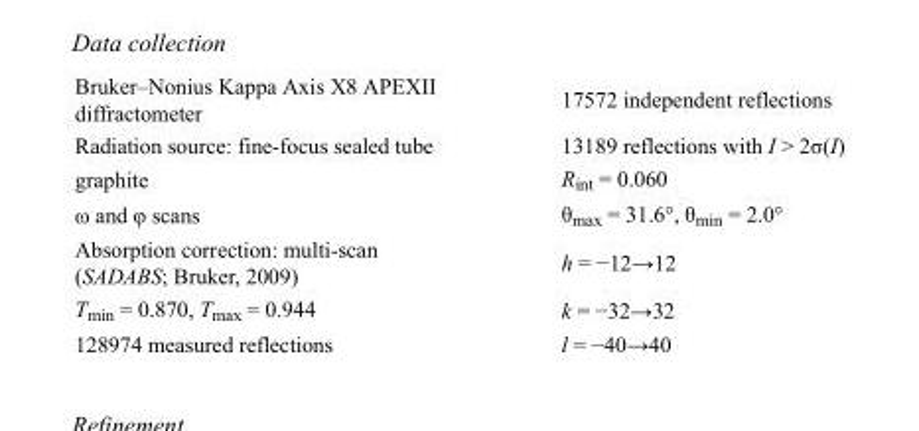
<table><tbody><tr><td>Bruker–Nonius Kappa Axis X8 APEXII diffractometer</td><td>17572 independent reflections</td></tr><tr><td>Radiation source: fine-focus sealed tube</td><td>13189 reflections with I &gt; 2σ(I)</td></tr><tr><td>graphite</td><td>R<sub>int</sub> = 0.060</td></tr><tr><td>ω and φ scans</td><td>θ<sub>max</sub> = 31.6°, θ<sub>min</sub> = 2.0°</td></tr><tr><td>Absorption correction: multi-scan (SADABS; Bruker, 2009)</td><td>h = −12→12</td></tr><tr><td>T<sub>min</sub> = 0.870, T<sub>max</sub> = 0.944</td><td>k = −32→32</td></tr><tr><td>128974 measured reflections</td><td>l = −40→40</td></tr></tbody></table>